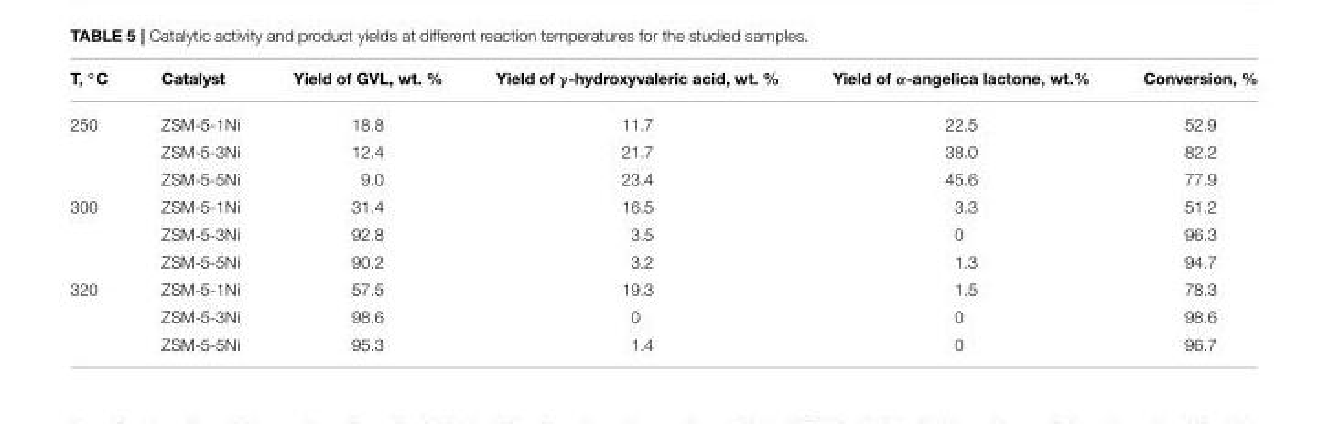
<table><thead><tr><td>T, ◦C</td><td>Catalyst</td><td>Yield of GVL, wt. %</td><td>Yield of γ-hydroxyvaleric acid, wt. %</td><td>Yield of α-angelica lactone, wt.%</td><td>Conversion, %</td></tr></thead><tbody><tr><td rowspan="3">250</td><td>ZSM-5-1Ni</td><td>18.8</td><td>11.7</td><td>22.5</td><td>52.9</td></tr><tr><td>ZSM-5-3Ni</td><td>12.4</td><td>21.7</td><td>38.0</td><td>82.2</td></tr><tr><td>ZSM-5-5Ni</td><td>9.0</td><td>23.4</td><td>45.6</td><td>77.9</td></tr><tr><td rowspan="3">300</td><td>ZSM-5-1Ni</td><td>31.4</td><td>16.5</td><td>3.3</td><td>51.2</td></tr><tr><td>ZSM-5-3Ni</td><td>92.8</td><td>3.5</td><td>0</td><td>96.3</td></tr><tr><td>ZSM-5-5Ni</td><td>90.2</td><td>3.2</td><td>1.3</td><td>94.7</td></tr><tr><td rowspan="3">320</td><td>ZSM-5-1Ni</td><td>57.5</td><td>19.3</td><td>1.5</td><td>78.3</td></tr><tr><td>ZSM-5-3Ni</td><td>98.6</td><td>0</td><td>0</td><td>98.6</td></tr><tr><td>ZSM-5-5Ni</td><td>95.3</td><td>1.4</td><td>0</td><td>96.7</td></tr></tbody></table>